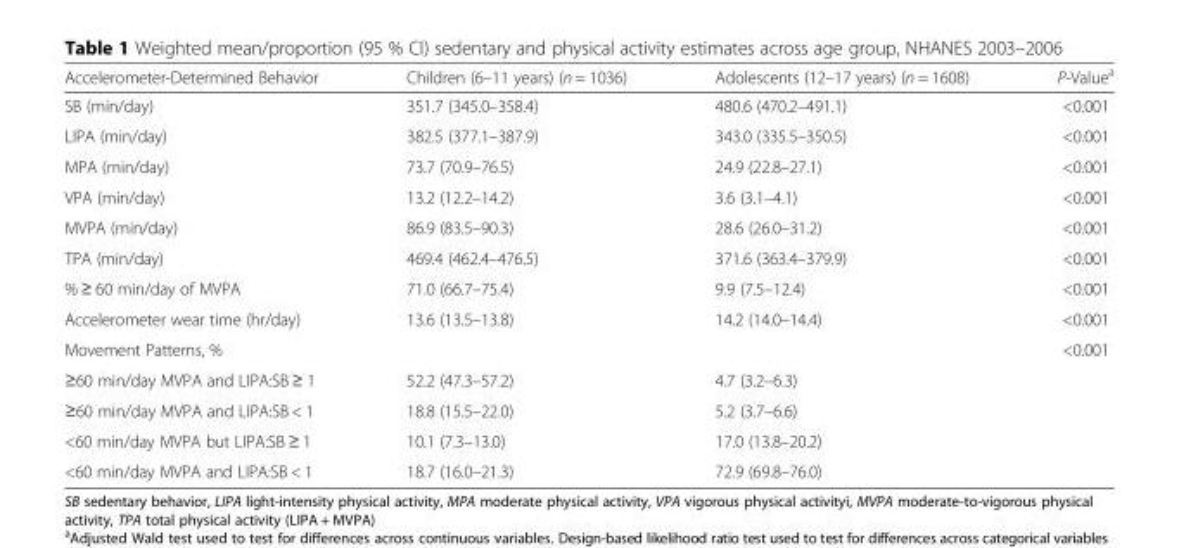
<table><thead><tr><td>Accelerometer-Determined Behavior</td><td>Children (6–11 years) (n = 1036)</td><td>Adolescents (12–17 years) (n = 1608)</td><td>P-Value<sup>a</sup></td></tr></thead><tbody><tr><td>SB (min/day)</td><td>351.7 (345.0–358.4)</td><td>480.6 (470.2–491.1)</td><td>&lt;0.001</td></tr><tr><td>LIPA (min/day)</td><td>382.5 (377.1–387.9)</td><td>343.0 (335.5–350.5)</td><td>&lt;0.001</td></tr><tr><td>MPA (min/day)</td><td>73.7 (70.9–76.5)</td><td>24.9 (22.8–27.1)</td><td>&lt;0.001</td></tr><tr><td>VPA (min/day)</td><td>13.2 (12.2–14.2)</td><td>3.6 (3.1–4.1)</td><td>&lt;0.001</td></tr><tr><td>MVPA (min/day)</td><td>86.9 (83.5–90.3)</td><td>28.6 (26.0–31.2)</td><td>&lt;0.001</td></tr><tr><td>TPA (min/day)</td><td>469.4 (462.4–476.5)</td><td>371.6 (363.4–379.9)</td><td>&lt;0.001</td></tr><tr><td>% ≥ 60 min/day of MVPA</td><td>71.0 (66.7–75.4)</td><td>9.9 (7.5–12.4)</td><td>&lt;0.001</td></tr><tr><td>Accelerometer wear time (hr/day)</td><td>13.6 (13.5–13.8)</td><td>14.2 (14.0–14.4)</td><td>&lt;0.001</td></tr><tr><td>Movement Patterns, %</td><td></td><td></td><td>&lt;0.001</td></tr><tr><td>≥60 min/day MVPA and LIPA:SB ≥ 1</td><td>52.2 (47.3–57.2)</td><td>4.7 (3.2–6.3)</td><td></td></tr><tr><td>≥60 min/day MVPA and LIPA:SB &lt; 1</td><td>18.8 (15.5–22.0)</td><td>5.2 (3.7–6.6)</td><td></td></tr><tr><td>&lt;60 min/day MVPA but LIPA:SB ≥ 1</td><td>10.1 (7.3–13.0)</td><td>17.0 (13.8–20.2)</td><td></td></tr><tr><td>&lt;60 min/day MVPA and LIPA:SB &lt; 1</td><td>18.7 (16.0–21.3)</td><td>72.9 (69.8–76.0)</td><td></td></tr></tbody></table>